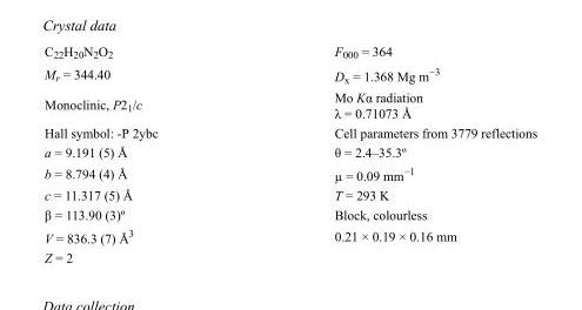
<table><tbody><tr><td>C<sub>22</sub>H<sub>20</sub>N<sub>2</sub>O<sub>2</sub></td><td>F000 = 364</td></tr><tr><td>M<sub>r</sub> = 344.40</td><td>D<sub>x</sub> = 1.368 Mg m<sup>−3</sup></td></tr><tr><td>Monoclinic, P2<sub>1</sub>/c</td><td>Mo Kα radiation λ = 0.71073 Å</td></tr><tr><td>Hall symbol: -P 2ybc</td><td>Cell parameters from 3779 reflections</td></tr><tr><td>a = 9.191 (5) Å</td><td>θ = 2.4–35.3º</td></tr><tr><td>b = 8.794 (4) Å</td><td>µ = 0.09 mm<sup>−1</sup></td></tr><tr><td>c = 11.317 (5) Å</td><td>T = 293 K</td></tr><tr><td>β = 113.90 (3)º</td><td>Block, colourless</td></tr><tr><td>V = 836.3 (7) Å<sup>3</sup></td><td>0.21 × 0.19 × 0.16 mm</td></tr><tr><td>Z = 2</td><td></td></tr></tbody></table>